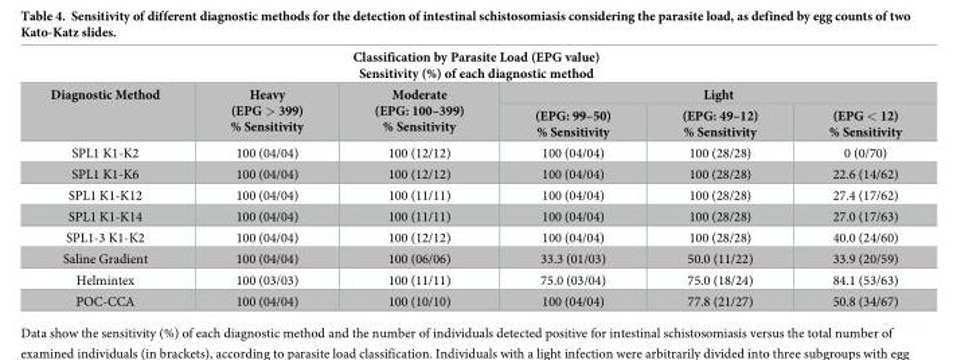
<table><thead><tr><td colspan="6">Classification by Parasite Load (EPG value) Sensitivity (%) of each diagnostic method</td></tr><tr><td rowspan="2">Diagnostic Method</td><td rowspan="2">Heavy (EPG &gt; 399) % Sensitivity</td><td rowspan="2">Moderate (EPG: 100–399) % Sensitivity</td><td colspan="3">Light</td></tr><tr><td>(EPG: 99–50) % Sensitivity</td><td>(EPG: 49–12) % Sensitivity</td><td>(EPG &lt; 12) % Sensitivity</td></tr></thead><tbody><tr><td>SPL1 K1-K2</td><td>100 (04/04)</td><td>100 (12/12)</td><td>100 (04/04)</td><td>100 (28/28)</td><td>0 (0/70)</td></tr><tr><td>SPL1 K1-K6</td><td>100 (04/04)</td><td>100 (12/12)</td><td>100 (04/04)</td><td>100 (28/28)</td><td>22.6 (14/62)</td></tr><tr><td>SPL1 K1-K12</td><td>100 (04/04)</td><td>100 (11/11)</td><td>100 (04/04)</td><td>100 (28/28)</td><td>27.4 (17/62)</td></tr><tr><td>SPL1 K1-K14</td><td>100 (04/04)</td><td>100 (11/11)</td><td>100 (04/04)</td><td>100 (28/28)</td><td>27.0 (17/63)</td></tr><tr><td>SPL1-3 K1-K2</td><td>100 (04/04)</td><td>100 (12/12)</td><td>100 (04/04)</td><td>100 (28/28)</td><td>40.0 (24/60)</td></tr><tr><td>Saline Gradient</td><td>100 (04/04)</td><td>100 (06/06)</td><td>33.3 (01/03)</td><td>50.0 (11/22)</td><td>33.9 (20/59)</td></tr><tr><td>Helmintex</td><td>100 (03/03)</td><td>100 (11/11)</td><td>75.0 (03/04)</td><td>75.0 (18/24)</td><td>84.1 (53/63)</td></tr><tr><td>POC-CCA</td><td>100 (04/04)</td><td>100 (10/10)</td><td>100 (04/04)</td><td>77.8 (21/27)</td><td>50.8 (34/67)</td></tr></tbody></table>